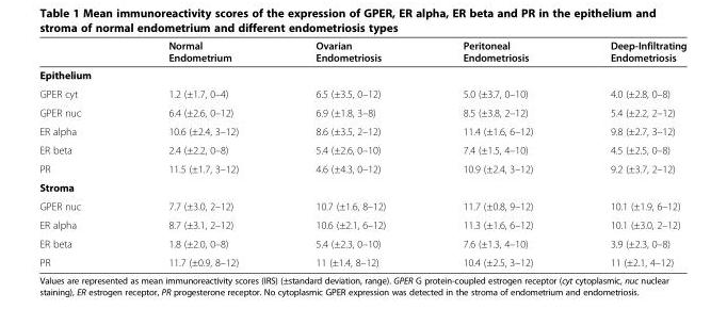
<table><thead><tr><td></td><td>Normal Endometrium</td><td>Ovarian Endometriosis</td><td>Peritoneal Endometriosis</td><td>Deep-Infiltrating Endometriosis</td></tr></thead><tbody><tr><td colspan="5">Epithelium</td></tr><tr><td>GPER cyt</td><td>1.2 (±1.7, 0–4)</td><td>6.5 (±3.5, 0–12)</td><td>5.0 (±3.7, 0–10)</td><td>4.0 (±2.8, 0–8)</td></tr><tr><td>GPER nuc</td><td>6.4 (±2.6, 0–12)</td><td>6.9 (±1.8, 3–8)</td><td>8.5 (±3.8, 2–12)</td><td>5.4 (±2.2, 2–12)</td></tr><tr><td>ER alpha</td><td>10.6 (±2.4, 3–12)</td><td>8.6 (±3.5, 2–12)</td><td>11.4 (±1.6, 6–12)</td><td>9.8 (±2.7, 3–12)</td></tr><tr><td>ER beta</td><td>2.4 (±2.2, 0–8)</td><td>5.4 (±2.6, 0–10)</td><td>7.4 (±1.5, 4–10)</td><td>4.5 (±2.5, 0–8)</td></tr><tr><td>PR</td><td>11.5 (±1.7, 3–12)</td><td>4.6 (±4.3, 0–12)</td><td>10.9 (±2.4, 3–12)</td><td>9.2 (±3.7, 2–12)</td></tr><tr><td colspan="5">Stroma</td></tr><tr><td>GPER nuc</td><td>7.7 (±3.0, 2–12)</td><td>10.7 (±1.6, 8–12)</td><td>11.7 (±0.8, 9–12)</td><td>10.1 (±1.9, 6–12)</td></tr><tr><td>ER alpha</td><td>8.7 (±3.1, 2–12)</td><td>10.6 (±2.1, 6–12)</td><td>11.3 (±1.6, 6–12)</td><td>10.1 (±3.0, 2–12)</td></tr><tr><td>ER beta</td><td>1.8 (±2.0, 0–8)</td><td>5.4 (±2.3, 0–10)</td><td>7.6 (±1.3, 4–10)</td><td>3.9 (±2.3, 0–8)</td></tr><tr><td>PR</td><td>11.7 (±0.9, 8–12)</td><td>11 (±1.4, 8–12)</td><td>10.4 (±2.5, 3–12)</td><td>11 (±2.1, 4–12)</td></tr></tbody></table>